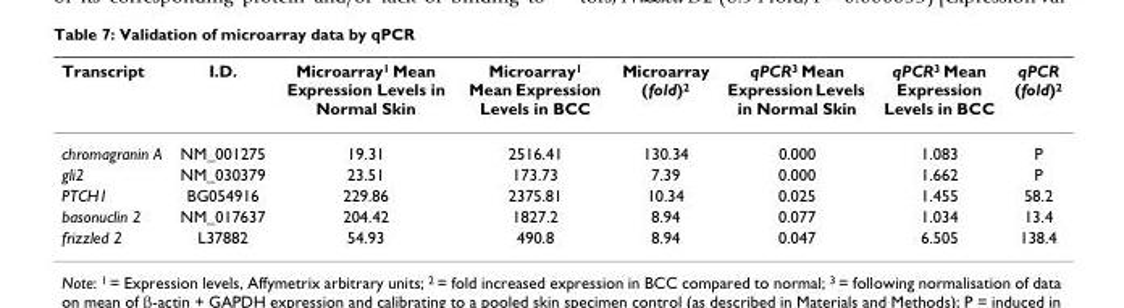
<table><thead><tr><td>Transcript</td><td>I.D.</td><td>Microarray<sup>1</sup> Mean Expression Levels in Normal Skin</td><td>Microarray<sup>1</sup> Mean Expression Levels in BCC</td><td>Microarray (fold)<sup>2</sup></td><td>qPCR<sup>3</sup> Mean Expression Levels in Normal Skin</td><td>qPCR<sup>3</sup> Mean Expression Levels in BCC</td><td>qPCR (fold)<sup>2</sup></td></tr></thead><tbody><tr><td>chromagranin A</td><td>NM_001275</td><td>19.31</td><td>2516.41</td><td>130.34</td><td>0.000</td><td>1.083</td><td>P</td></tr><tr><td>gli2</td><td>NM_030379</td><td>23.51</td><td>173.73</td><td>7.39</td><td>0.000</td><td>1.662</td><td>P</td></tr><tr><td>PTCH1</td><td>BG054916</td><td>229.86</td><td>2375.81</td><td>10.34</td><td>0.025</td><td>1.455</td><td>58.2</td></tr><tr><td>basonuclin 2</td><td>NM_017637</td><td>204.42</td><td>1827.2</td><td>8.94</td><td>0.077</td><td>1.034</td><td>13.4</td></tr><tr><td>frizzled 2</td><td>L37882</td><td>54.93</td><td>490.8</td><td>8.94</td><td>0.047</td><td>6.505</td><td>138.4</td></tr></tbody></table>